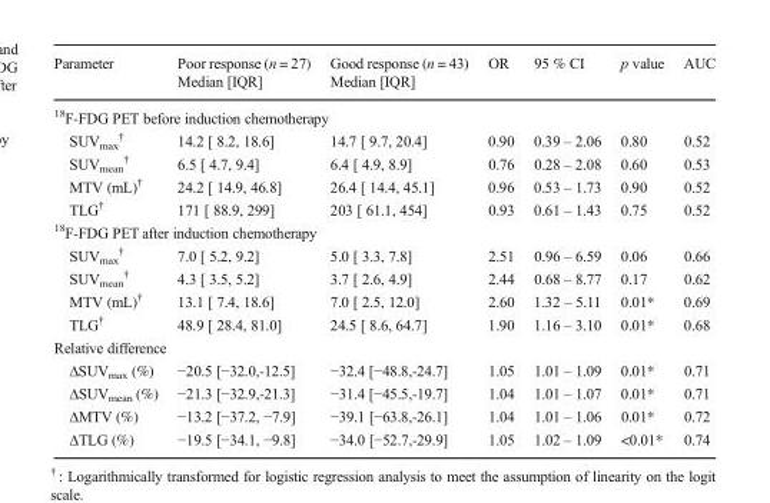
<table><thead><tr><td>Parameter</td><td>Poor response (n = 27) Median [IQR]</td><td>Good response (n = 43) Median [IQR]</td><td>OR</td><td>95 % CI</td><td>p value</td><td>AUC</td></tr></thead><tbody><tr><td colspan="7"><sup>18</sup>F-FDG PET before induction chemotherapy</td></tr><tr><td>SUV<sub>max</sub> <sup>†</sup></td><td>14.2 [ 8.2, 18.6]</td><td>14.7 [ 9.7, 20.4]</td><td>0.90</td><td>0.39 – 2.06</td><td>0.80</td><td>0.52</td></tr><tr><td>SUV<sub>mean</sub> <sup>†</sup></td><td>6.5 [ 4.7, 9.4]</td><td>6.4 [ 4.9, 8.9]</td><td>0.76</td><td>0.28 – 2.08</td><td>0.60</td><td>0.53</td></tr><tr><td>MTV (mL)<sup>†</sup></td><td>24.2 [ 14.9, 46.8]</td><td>26.4 [ 14.4, 45.1]</td><td>0.96</td><td>0.53 – 1.73</td><td>0.90</td><td>0.52</td></tr><tr><td>TLG<sup>†</sup></td><td>171 [ 88.9, 299]</td><td>203 [ 61.1, 454]</td><td>0.93</td><td>0.61 – 1.43</td><td>0.75</td><td>0.52</td></tr><tr><td colspan="7"><sup>18</sup>F-FDG PET after induction chemotherapy</td></tr><tr><td>SUV<sub>max</sub> <sup>†</sup></td><td>7.0 [ 5.2, 9.2]</td><td>5.0 [ 3.3, 7.8]</td><td>2.51</td><td>0.96 – 6.59</td><td>0.06</td><td>0.66</td></tr><tr><td>SUV<sub>mean</sub> <sup>†</sup></td><td>4.3 [ 3.5, 5.2]</td><td>3.7 [ 2.6, 4.9]</td><td>2.44</td><td>0.68 – 8.77</td><td>0.17</td><td>0.62</td></tr><tr><td>MTV (mL)<sup>†</sup></td><td>13.1 [ 7.4, 18.6]</td><td>7.0 [ 2.5, 12.0]</td><td>2.60</td><td>1.32 – 5.11</td><td>0.01*</td><td>0.69</td></tr><tr><td>TLG<sup>†</sup></td><td>48.9 [ 28.4, 81.0]</td><td>24.5 [ 8.6, 64.7]</td><td>1.90</td><td>1.16 – 3.10</td><td>0.01*</td><td>0.68</td></tr><tr><td colspan="7">Relative difference</td></tr><tr><td>ΔSUVmax (%)</td><td>−20.5 [−32.0,-12.5]</td><td>−32.4 [−48.8,-24.7]</td><td>1.05</td><td>1.01 – 1.09</td><td>0.01*</td><td>0.71</td></tr><tr><td>ΔSUVmean (%)</td><td>−21.3 [−32.9,-21.3]</td><td>−31.4 [−45.5,-19.7]</td><td>1.04</td><td>1.01 – 1.07</td><td>0.01*</td><td>0.71</td></tr><tr><td>ΔMTV (%)</td><td>−13.2 [−37.2, −7.9]</td><td>−39.1 [−63.8,-26.1]</td><td>1.04</td><td>1.01 – 1.06</td><td>0.01*</td><td>0.72</td></tr><tr><td>ΔTLG (%)</td><td>−19.5 [−34.1, −9.8]</td><td>−34.0 [−52.7,-29.9]</td><td>1.05</td><td>1.02 – 1.09</td><td>&lt;0.01*</td><td>0.74</td></tr></tbody></table>